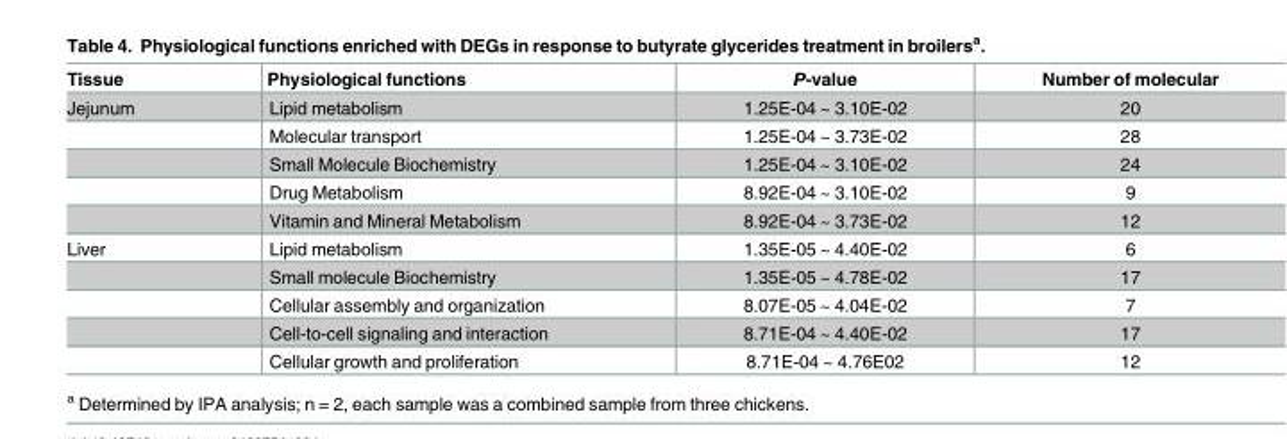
<table><thead><tr><td>Tissue</td><td>Physiological functions</td><td>P-value</td><td>Number of molecular</td></tr></thead><tbody><tr><td rowspan="5">Jejunum</td><td>Lipid metabolism</td><td>1.25E-04 ~ 3.10E-02</td><td>20</td></tr><tr><td>Molecular transport</td><td>1.25E-04 ~ 3.73E-02</td><td>28</td></tr><tr><td>Small Molecule Biochemistry</td><td>1.25E-04 ~ 3.10E-02</td><td>24</td></tr><tr><td>Drug Metabolism</td><td>8.92E-04 ~ 3.10E-02</td><td>9</td></tr><tr><td>Vitamin and Mineral Metabolism</td><td>8.92E-04 ~ 3.73E-02</td><td>12</td></tr><tr><td rowspan="5">Liver</td><td>Lipid metabolism</td><td>1.35E-05 ~ 4.40E-02</td><td>6</td></tr><tr><td>Small molecule Biochemistry</td><td>1.35E-05 ~ 4.78E-02</td><td>17</td></tr><tr><td>Cellular assembly and organization</td><td>8.07E-05 ~ 4.04E-02</td><td>7</td></tr><tr><td>Cell-to-cell signaling and interaction</td><td>8.71E-04 ~ 4.40E-02</td><td>17</td></tr><tr><td>Cellular growth and proliferation</td><td>8.71E-04 ~ 4.76E02</td><td>12</td></tr></tbody></table>